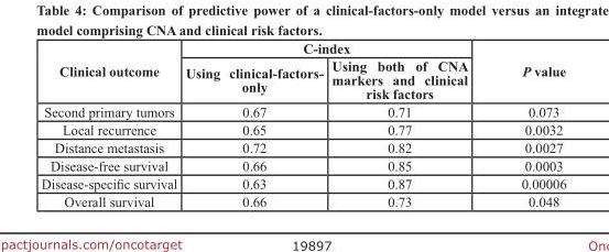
<table><thead><tr><td rowspan="2">Clinical outcome</td><td colspan="2">C-index</td><td rowspan="2">P value</td></tr><tr><td>Using clinical-factors- only</td><td>Using both of CNA markers and clinical risk factors</td></tr></thead><tbody><tr><td>Second primary tumors</td><td>0.67</td><td>0.71</td><td>0.073</td></tr><tr><td>Local recurrence</td><td>0.65</td><td>0.77</td><td>0.0032</td></tr><tr><td>Distance metastasis</td><td>0.72</td><td>0.82</td><td>0.0027</td></tr><tr><td>Disease-free survival</td><td>0.66</td><td>0.85</td><td>0.0003</td></tr><tr><td>Disease-specific survival</td><td>0.63</td><td>0.87</td><td>0.00006</td></tr><tr><td>Overall survival</td><td>0.66</td><td>0.73</td><td>0.048</td></tr></tbody></table>